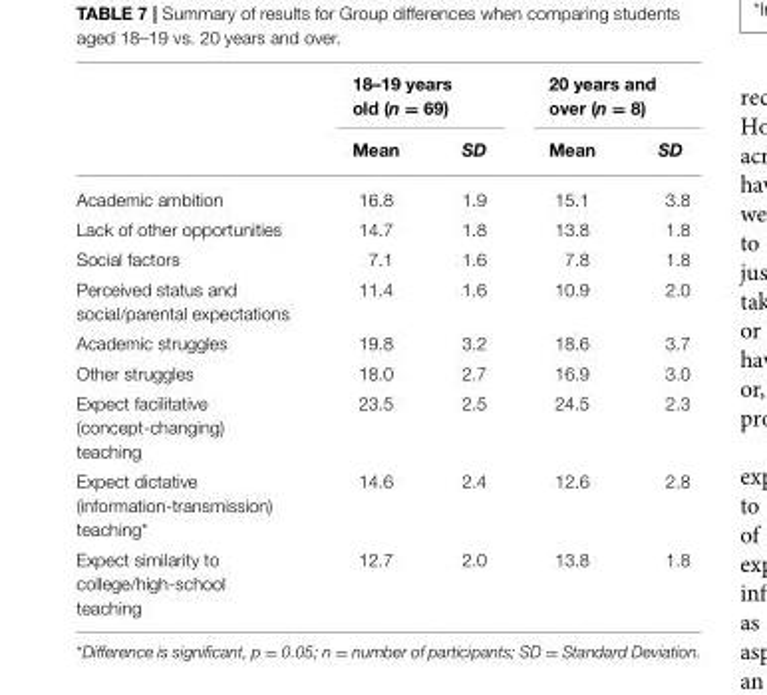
<table><thead><tr><td rowspan="2"></td><td colspan="2">18–19 years old (n = 69)</td><td colspan="2">20 years and over (n = 8)</td></tr><tr><td>Mean</td><td>SD</td><td>Mean</td><td>SD</td></tr></thead><tbody><tr><td>Academic ambition</td><td>16.8</td><td>1.9</td><td>15.1</td><td>3.8</td></tr><tr><td>Lack of other opportunities</td><td>14.7</td><td>1.8</td><td>13.8</td><td>1.8</td></tr><tr><td>Social factors</td><td>7.1</td><td>1.6</td><td>7.8</td><td>1.8</td></tr><tr><td>Perceived status and social/parental expectations</td><td>11.4</td><td>1.6</td><td>10.9</td><td>2.0</td></tr><tr><td>Academic struggles</td><td>19.8</td><td>3.2</td><td>18.6</td><td>3.7</td></tr><tr><td>Other struggles</td><td>18.0</td><td>2.7</td><td>16.9</td><td>3.0</td></tr><tr><td>Expect facilitative (concept-changing) teaching</td><td>23.5</td><td>2.5</td><td>24.5</td><td>2.3</td></tr><tr><td>Expect dictative (information-transmission) teaching*</td><td>14.6</td><td>2.4</td><td>12.6</td><td>2.8</td></tr><tr><td>Expect similarity to college/high-school teaching</td><td>12.7</td><td>2.0</td><td>13.8</td><td>1.8</td></tr></tbody></table>